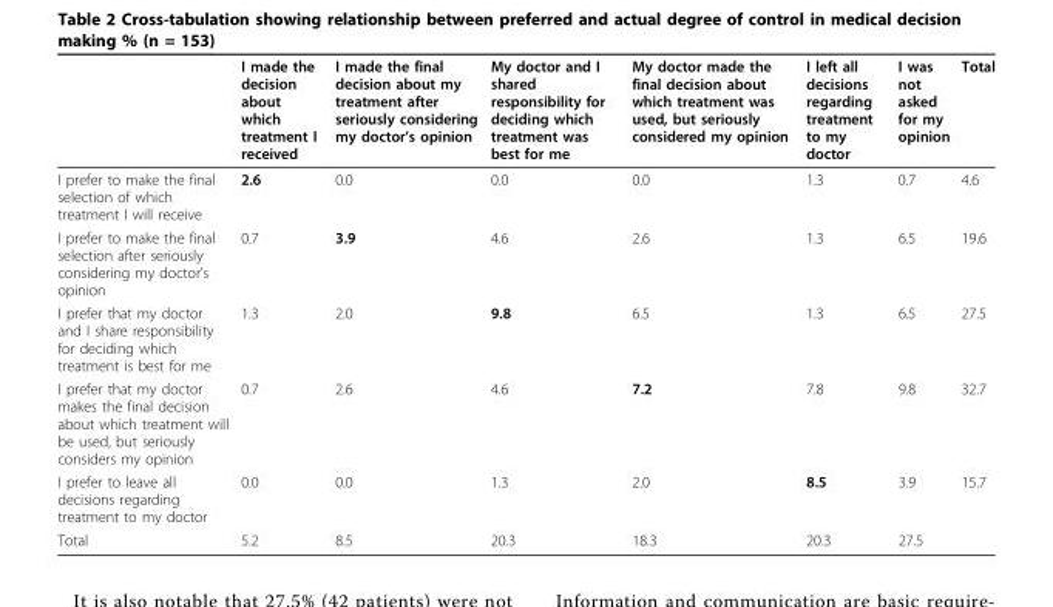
<table><thead><tr><td></td><td>I made the decision about which treatment I received</td><td>I made the final decision about my treatment after seriously considering my doctor’s opinion</td><td>My doctor and I shared responsibility for deciding which treatment was best for me</td><td>My doctor made the final decision about which treatment was used, but seriously considered my opinion</td><td>I left all decisions regarding treatment to my doctor</td><td>I was not asked for my opinion</td><td>Total</td></tr></thead><tbody><tr><td>I prefer to make the final selection of which treatment I will receive</td><td>2.6</td><td>0.0</td><td>0.0</td><td>0.0</td><td>1.3</td><td>0.7</td><td>4.6</td></tr><tr><td>I prefer to make the final selection after seriously considering my doctor’s opinion</td><td>0.7</td><td>3.9</td><td>4.6</td><td>2.6</td><td>1.3</td><td>6.5</td><td>19.6</td></tr><tr><td>I prefer that my doctor and I share responsibility for deciding which treatment is best for me</td><td>1.3</td><td>2.0</td><td>9.8</td><td>6.5</td><td>1.3</td><td>6.5</td><td>27.5</td></tr><tr><td>I prefer that my doctor makes the final decision about which treatment will be used, but seriously considers my opinion</td><td>0.7</td><td>2.6</td><td>4.6</td><td>7.2</td><td>7.8</td><td>9.8</td><td>32.7</td></tr><tr><td>I prefer to leave all decisions regarding treatment to my doctor</td><td>0.0</td><td>0.0</td><td>1.3</td><td>2.0</td><td>8.5</td><td>3.9</td><td>15.7</td></tr><tr><td>Total</td><td>5.2</td><td>8.5</td><td>20.3</td><td>18.3</td><td>20.3</td><td>27.5</td><td></td></tr></tbody></table>